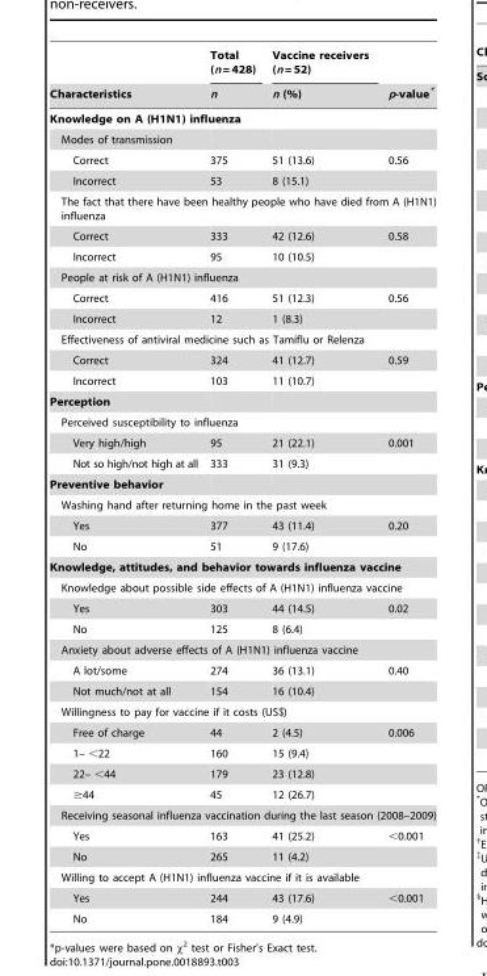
<table><thead><tr><td rowspan="2">Characteristics</td><td rowspan="2">Total (n = 428) n</td><td rowspan="2">Vaccine receivers (n = 52) n (%)</td><td rowspan="2">p-value*</td></tr><tr></tr></thead><tbody><tr><td colspan="4">Knowledge on A (H1N1) influenza</td></tr><tr><td colspan="4">Modes of transmission</td></tr><tr><td>Correct</td><td>375</td><td>51 (13.6)</td><td>0.56</td></tr><tr><td>Incorrect</td><td>53</td><td>8 (15.1)</td><td></td></tr><tr><td colspan="4">The fact that there have been healthy people who have died from A (H1N1) influenza</td></tr><tr><td>Correct</td><td>333</td><td>42 (12.6)</td><td>0.58</td></tr><tr><td>Incorrect</td><td>95</td><td>10 (10.5)</td><td></td></tr><tr><td colspan="4">People at risk of A (H1N1) influenza</td></tr><tr><td>Correct</td><td>416</td><td>51 (12.3)</td><td>0.56</td></tr><tr><td>Incorrect</td><td>12</td><td>1 (8.3)</td><td></td></tr><tr><td colspan="4">Effectiveness of antiviral medicine such as Tamiflu or Relenza</td></tr><tr><td>Correct</td><td>324</td><td>41 (12.7)</td><td>0.59</td></tr><tr><td>Incorrect</td><td>103</td><td>11 (10.7)</td><td></td></tr><tr><td colspan="4">Perception</td></tr><tr><td colspan="4">Perceived susceptibility to influenza</td></tr><tr><td>Very high/high</td><td>95</td><td>21 (22.1)</td><td>0.001</td></tr><tr><td>Not so high/not high at all</td><td>333</td><td>31 (9.3)</td><td></td></tr><tr><td colspan="4">Preventive behavior</td></tr><tr><td colspan="4">Washing hand after returning home in the past week</td></tr><tr><td>Yes</td><td>377</td><td>43 (11.4)</td><td>0.20</td></tr><tr><td>No</td><td>51</td><td>9 (17.6)</td><td></td></tr><tr><td colspan="4">Knowledge, attitudes, and behavior towards influenza vaccine</td></tr><tr><td colspan="4">Knowledge about possible side effects of A (H1N1) influenza vaccine</td></tr><tr><td>Yes</td><td>303</td><td>44 (14.5)</td><td>0.02</td></tr><tr><td>No</td><td>125</td><td>8 (6.4)</td><td></td></tr><tr><td colspan="4">Anxiety about adverse effects of A (H1N1) influenza vaccine</td></tr><tr><td>A lot/some</td><td>274</td><td>36 (13.1)</td><td>0.40</td></tr><tr><td>Not much/not at all</td><td>154</td><td>16 (10.4)</td><td></td></tr><tr><td colspan="4">Willingness to pay for vaccine if it costs (US$)</td></tr><tr><td>Free of charge</td><td>44</td><td>2 (4.5)</td><td>0.006</td></tr><tr><td>1– &lt;22</td><td>160</td><td>15 (9.4)</td><td></td></tr><tr><td>22– &lt;44</td><td>179</td><td>23 (12.8)</td><td></td></tr><tr><td>≥44</td><td>45</td><td>12 (26.7)</td><td></td></tr><tr><td colspan="4">Receiving seasonal influenza vaccination during the last season (2008–2009)</td></tr><tr><td>Yes</td><td>163</td><td>41 (25.2)</td><td>&lt;0.001</td></tr><tr><td>No</td><td>265</td><td>11 (4.2)</td><td></td></tr><tr><td colspan="4">Willing to accept A (H1N1) influenza vaccine if it is available</td></tr><tr><td>Yes</td><td>244</td><td>43 (17.6)</td><td>&lt;0.001</td></tr><tr><td>No</td><td>184</td><td>9 (4.9)</td><td></td></tr></tbody></table>